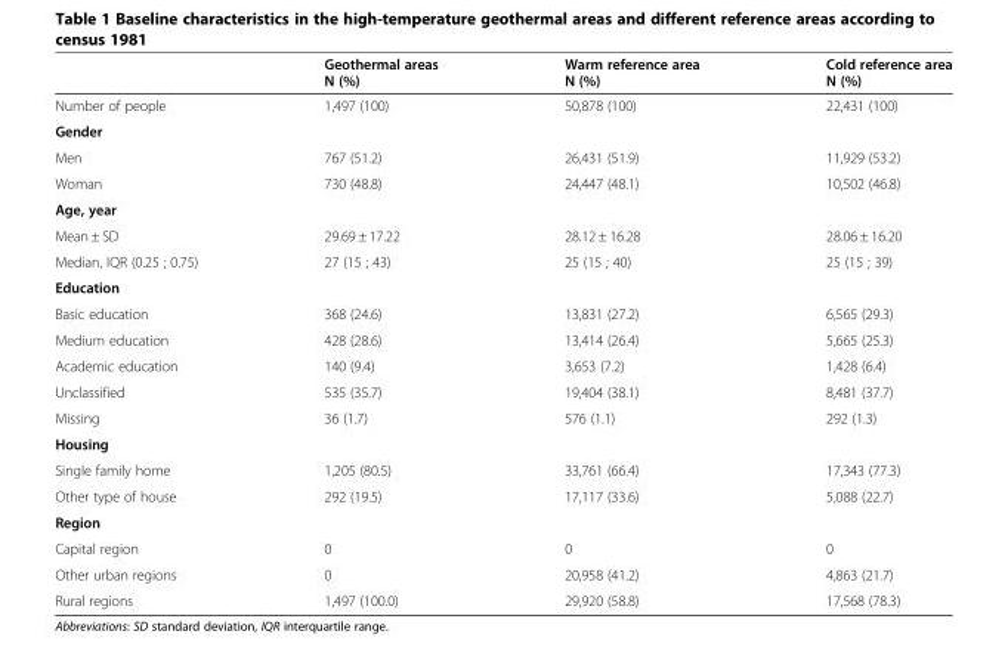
<table><thead><tr><td></td><td>Geothermal areas N (%)</td><td>Warm reference area N (%)</td><td>Cold reference area N (%)</td></tr></thead><tbody><tr><td>Number of people</td><td>1,497 (100)</td><td>50,878 (100)</td><td>22,431 (100)</td></tr><tr><td colspan="4">Gender</td></tr><tr><td>Men</td><td>767 (51.2)</td><td>26,431 (51.9)</td><td>11,929 (53.2)</td></tr><tr><td>Woman</td><td>730 (48.8)</td><td>24,447 (48.1)</td><td>10,502 (46.8)</td></tr><tr><td colspan="4">Age, year</td></tr><tr><td>Mean ± SD</td><td>29.69 ± 17.22</td><td>28.12 ± 16.28</td><td>28.06 ± 16.20</td></tr><tr><td>Median, IQR (0.25 ; 0.75)</td><td>27 (15 ; 43)</td><td>25 (15 ; 40)</td><td>25 (15 ; 39)</td></tr><tr><td colspan="4">Education</td></tr><tr><td>Basic education</td><td>368 (24.6)</td><td>13,831 (27.2)</td><td>6,565 (29.3)</td></tr><tr><td>Medium education</td><td>428 (28.6)</td><td>13,414 (26.4)</td><td>5,665 (25.3)</td></tr><tr><td>Academic education</td><td>140 (9.4)</td><td>3,653 (7.2)</td><td>1,428 (6.4)</td></tr><tr><td>Unclassified</td><td>535 (35.7)</td><td>19,404 (38.1)</td><td>8,481 (37.7)</td></tr><tr><td>Missing</td><td>36 (1.7)</td><td>576 (1.1)</td><td>292 (1.3)</td></tr><tr><td colspan="4">Housing</td></tr><tr><td>Single family home</td><td>1,205 (80.5)</td><td>33,761 (66.4)</td><td>17,343 (77.3)</td></tr><tr><td>Other type of house</td><td>292 (19.5)</td><td>17,117 (33.6)</td><td>5,088 (22.7)</td></tr><tr><td colspan="4">Region</td></tr><tr><td>Capital region</td><td>0</td><td>0</td><td>0</td></tr><tr><td>Other urban regions</td><td>0</td><td>20,958 (41.2)</td><td>4,863 (21.7)</td></tr><tr><td>Rural regions</td><td>1,497 (100.0)</td><td>29,920 (58.8)</td><td>17,568 (78.3)</td></tr></tbody></table>